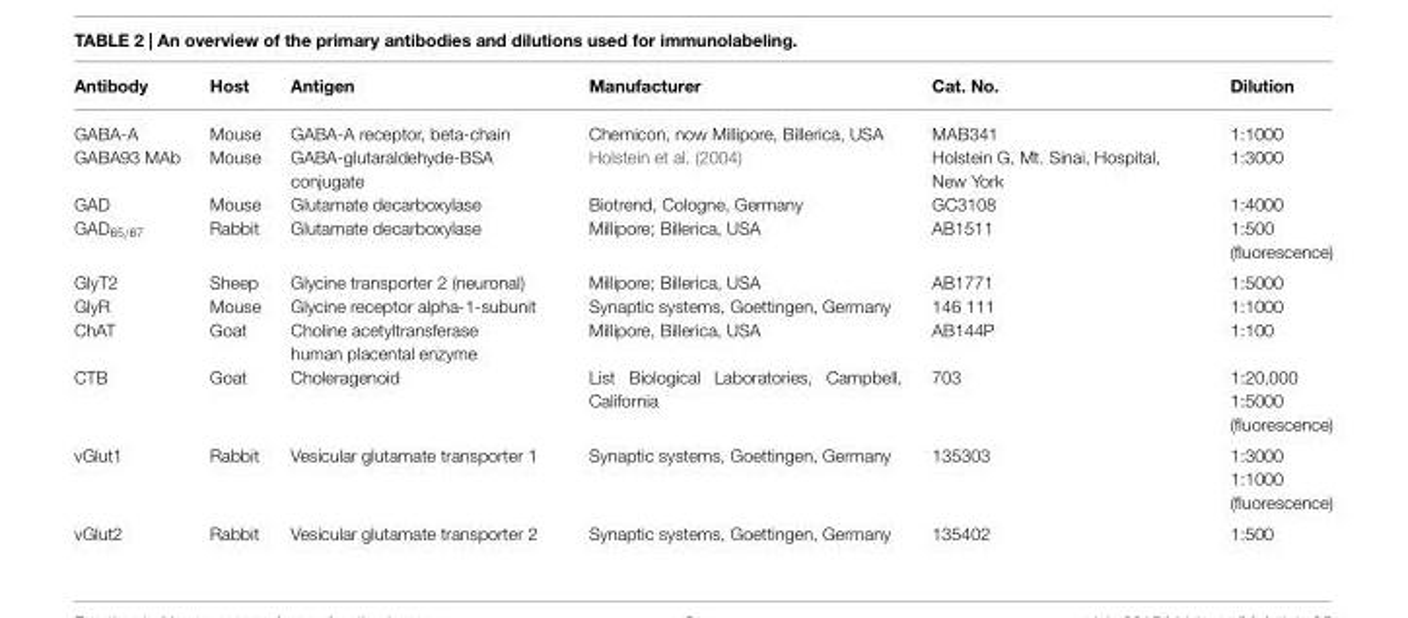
<table><thead><tr><td>Antibody</td><td>Host</td><td>Antigen</td><td>Manufacturer</td><td>Cat. No.</td><td>Dilution</td></tr></thead><tbody><tr><td>GABA-A</td><td>Mouse</td><td>GABA-A receptor, beta-chain</td><td>Chemicon, now Millipore, Billerica, USA</td><td>MAB341</td><td>1:1000</td></tr><tr><td>GABA93 MAb</td><td>Mouse</td><td>GABA-glutaraldehyde-BSA conjugate</td><td>Holstein et al. (2004)</td><td>Holstein G, Mt. Sinai, Hospital, New York</td><td>1:3000</td></tr><tr><td>GAD</td><td>Mouse</td><td>Glutamate decarboxylase</td><td>Biotrend, Cologne, Germany</td><td>GC3108</td><td>1:4000</td></tr><tr><td>GAD<sub>65/67</sub></td><td>Rabbit</td><td>Glutamate decarboxylase</td><td>Millipore; Billerica, USA</td><td>AB1511</td><td>1:500 (fluorescence)</td></tr><tr><td>GlyT2</td><td>Sheep</td><td>Glycine transporter 2 (neuronal)</td><td>Millipore; Billerica, USA</td><td>AB1771</td><td>1:5000</td></tr><tr><td>GlyR</td><td>Mouse</td><td>Glycine receptor alpha-1-subunit</td><td>Synaptic systems, Goettingen, Germany</td><td>146 111</td><td>1:1000</td></tr><tr><td>ChAT</td><td>Goat</td><td>Choline acetyltransferase human placental enzyme</td><td>Millipore, Billerica, USA</td><td>AB144P</td><td>1:100</td></tr><tr><td>CTB</td><td>Goat</td><td>Choleragenoid</td><td>List Biological Laboratories, Campbell, California</td><td>703</td><td>1:20,000 1:5000 (fluorescence)</td></tr><tr><td>vGlut1</td><td>Rabbit</td><td>Vesicular glutamate transporter 1</td><td>Synaptic systems, Goettingen, Germany</td><td>135303</td><td>1:3000 1:1000 (fluorescence)</td></tr><tr><td>vGlut2</td><td>Rabbit</td><td>Vesicular glutamate transporter 2</td><td>Synaptic systems, Goettingen, Germany</td><td>135402</td><td>1:500</td></tr></tbody></table>